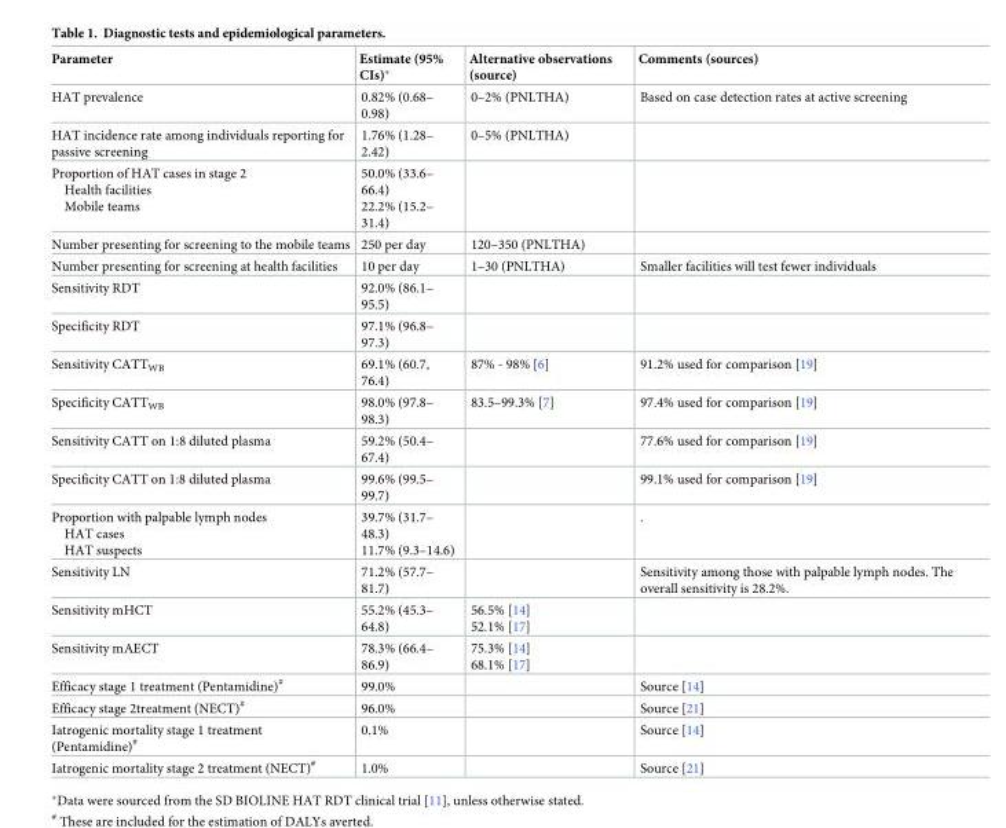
<table><thead><tr><td>Parameter</td><td>Estimate (95% CIs)*</td><td>Alternative observations (source)</td><td>Comments (sources)</td></tr></thead><tbody><tr><td>HAT prevalence</td><td>0.82% (0.68– 0.98)</td><td>0–2% (PNLTHA)</td><td>Based on case detection rates at active screening</td></tr><tr><td>HAT incidence rate among individuals reporting for passive screening</td><td>1.76% (1.28– 2.42)</td><td>0–5% (PNLTHA)</td><td></td></tr><tr><td>Proportion of HAT cases in stage 2 Health facilities Mobile teams</td><td>50.0% (33.6– 66.4) 22.2% (15.2– 31.4)</td><td></td><td></td></tr><tr><td>Number presenting for screening to the mobile teams</td><td>250 per day</td><td>120–350 (PNLTHA)</td><td></td></tr><tr><td>Number presenting for screening at health facilities</td><td>10 per day</td><td>1–30 (PNLTHA)</td><td>Smaller facilities will test fewer individuals</td></tr><tr><td>Sensitivity RDT</td><td>92.0% (86.1– 95.5)</td><td></td><td></td></tr><tr><td>Specificity RDT</td><td>97.1% (96.8– 97.3)</td><td></td><td></td></tr><tr><td>Sensitivity CATT<sub>WB</sub></td><td>69.1% (60.7, 76.4)</td><td>87% - 98% [6]</td><td>91.2% used for comparison [19]</td></tr><tr><td>Specificity CATT<sub>WB</sub></td><td>98.0% (97.8– 98.3)</td><td>83.5–99.3% [7]</td><td>97.4% used for comparison [19]</td></tr><tr><td>Sensitivity CATT on 1:8 diluted plasma</td><td>59.2% (50.4– 67.4)</td><td></td><td>77.6% used for comparison [19]</td></tr><tr><td>Specificity CATT on 1:8 diluted plasma</td><td>99.6% (99.5– 99.7)</td><td></td><td>99.1% used for comparison [19]</td></tr><tr><td>Proportion with palpable lymph nodes HAT cases HAT suspects</td><td>39.7% (31.7– 48.3) 11.7% (9.3–14.6)</td><td></td><td>.</td></tr><tr><td>Sensitivity LN</td><td>71.2% (57.7– 81.7)</td><td></td><td>Sensitivity among those with palpable lymph nodes. The overall sensitivity is 28.2%.</td></tr><tr><td>Sensitivity mHCT</td><td>55.2% (45.3– 64.8)</td><td>56.5% [14] 52.1% [17]</td><td></td></tr><tr><td>Sensitivity mAECT</td><td>78.3% (66.4– 86.9)</td><td>75.3% [14] 68.1% [17]</td><td></td></tr><tr><td>Efficacy stage 1 treatment (Pentamidine)<sup>#</sup></td><td>99.0%</td><td></td><td>Source [14]</td></tr><tr><td>Efficacy stage 2treatment (NECT)<sup>#</sup></td><td>96.0%</td><td></td><td>Source [21]</td></tr><tr><td>Iatrogenic mortality stage 1 treatment (Pentamidine)<sup>#</sup></td><td>0.1%</td><td></td><td>Source [14]</td></tr><tr><td>Iatrogenic mortality stage 2 treatment (NECT)<sup>#</sup></td><td>1.0%</td><td></td><td>Source [21]</td></tr></tbody></table>